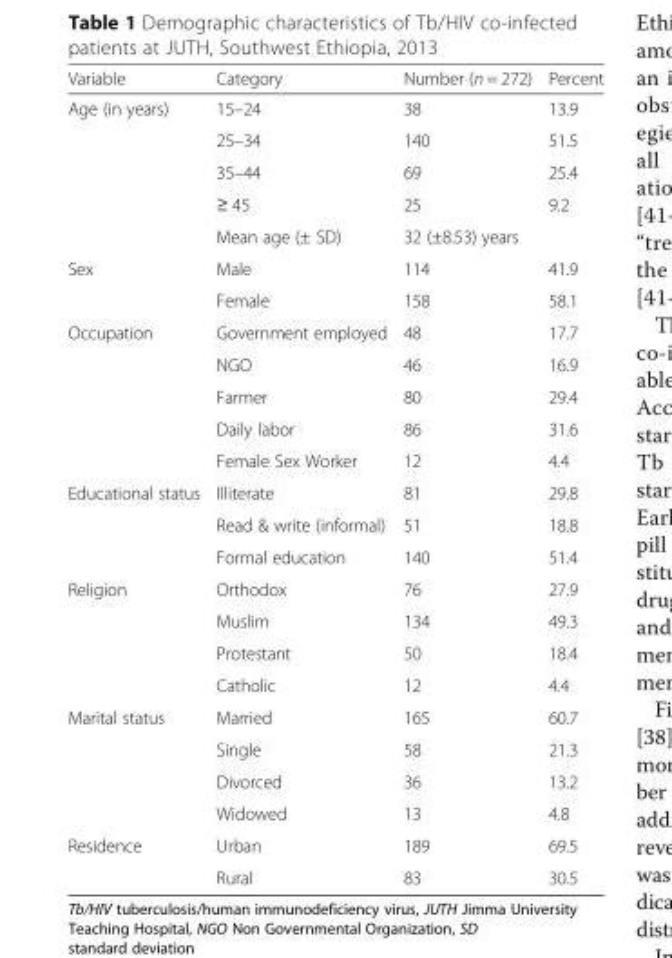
<table><thead><tr><td>Variable</td><td>Category</td><td>Number (n = 272)</td><td>Percent</td></tr></thead><tbody><tr><td rowspan="5">Age (in years)</td><td>15–24</td><td>38</td><td>13.9</td></tr><tr><td>25–34</td><td>140</td><td>51.5</td></tr><tr><td>35–44</td><td>69</td><td>25.4</td></tr><tr><td>≥ 45</td><td>25</td><td>9.2</td></tr><tr><td>Mean age (± SD)</td><td colspan="2">32 (±8.53) years</td></tr><tr><td rowspan="2">Sex</td><td>Male</td><td>114</td><td>41.9</td></tr><tr><td>Female</td><td>158</td><td>58.1</td></tr><tr><td rowspan="5">Occupation</td><td>Government employed</td><td>48</td><td>17.7</td></tr><tr><td>NGO</td><td>46</td><td>16.9</td></tr><tr><td>Farmer</td><td>80</td><td>29.4</td></tr><tr><td>Daily labor</td><td>86</td><td>31.6</td></tr><tr><td>Female Sex Worker</td><td>12</td><td>4.4</td></tr><tr><td rowspan="3">Educational status</td><td>Illiterate</td><td>81</td><td>29.8</td></tr><tr><td>Read &amp; write (informal)</td><td>51</td><td>18.8</td></tr><tr><td>Formal education</td><td>140</td><td>51.4</td></tr><tr><td rowspan="4">Religion</td><td>Orthodox</td><td>76</td><td>27.9</td></tr><tr><td>Muslim</td><td>134</td><td>49.3</td></tr><tr><td>Protestant</td><td>50</td><td>18.4</td></tr><tr><td>Catholic</td><td>12</td><td>4.4</td></tr><tr><td rowspan="4">Marital status</td><td>Married</td><td>165</td><td>60.7</td></tr><tr><td>Single</td><td>58</td><td>21.3</td></tr><tr><td>Divorced</td><td>36</td><td>13.2</td></tr><tr><td>Widowed</td><td>13</td><td>4.8</td></tr><tr><td rowspan="2">Residence</td><td>Urban</td><td>189</td><td>69.5</td></tr><tr><td>Rural</td><td>83</td><td>30.5</td></tr></tbody></table>